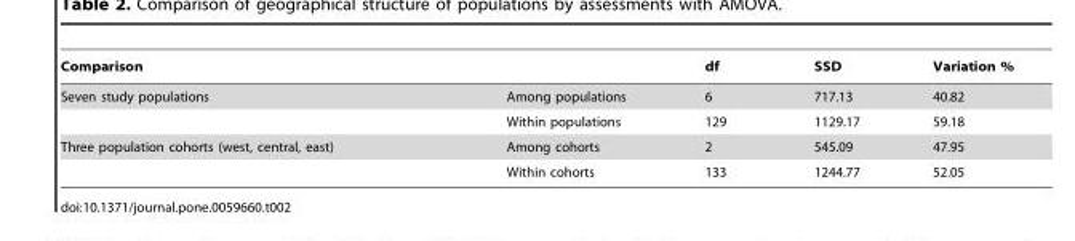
<table><thead><tr><td colspan="2">Comparison</td><td rowspan="2">df 6</td><td rowspan="2">SSD 717.13</td><td rowspan="2">Variation % 40.82</td></tr><tr><td>Seven study populations</td><td>Among populations</td></tr></thead><tbody><tr><td></td><td>Within populations</td><td>129</td><td>1129.17</td><td>59.18</td></tr><tr><td rowspan="2">Three population cohorts (west, central, east)</td><td>Among cohorts</td><td>2</td><td>545.09</td><td>47.95</td></tr><tr><td>Within cohorts</td><td>133</td><td>1244.77</td><td>52.05</td></tr></tbody></table>